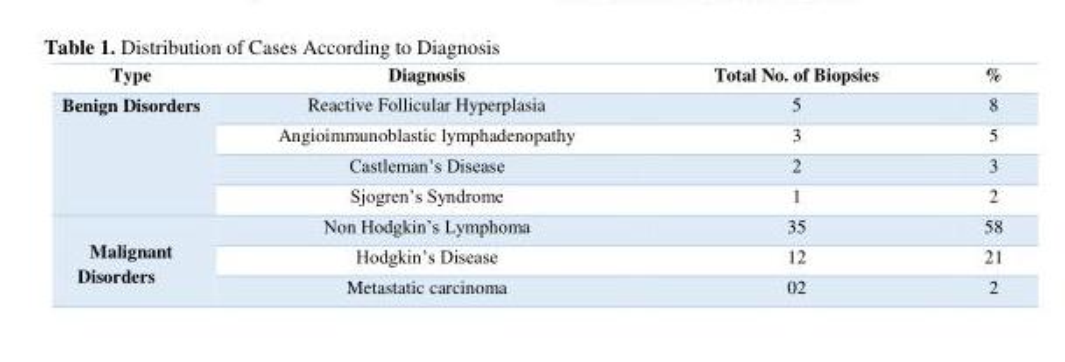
<table><thead><tr><td>Type</td><td>Diagnosis</td><td>Total No. of Biopsies</td><td>%</td></tr></thead><tbody><tr><td rowspan="4">Benign Disorders</td><td>Reactive Follicular Hyperplasia</td><td>5</td><td>8</td></tr><tr><td>Angioimmunoblastic lymphadenopathy</td><td>3</td><td>5</td></tr><tr><td>Castleman’s Disease</td><td>2</td><td>3</td></tr><tr><td>Sjogren’s Syndrome</td><td>1</td><td>2</td></tr><tr><td rowspan="3">Malignant Disorders</td><td>Non Hodgkin’s Lymphoma</td><td>35</td><td>58</td></tr><tr><td>Hodgkin’s Disease</td><td>12</td><td>21</td></tr><tr><td>Metastatic carcinoma</td><td>02</td><td>2</td></tr></tbody></table>